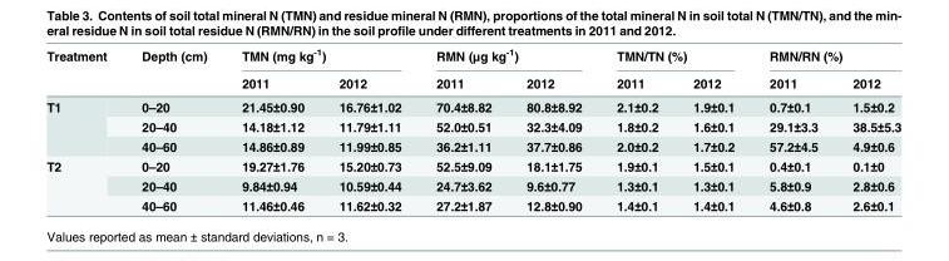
<table><thead><tr><td rowspan="2">Treatment</td><td rowspan="2">Depth (cm)</td><td colspan="2">TMN (mg kg<sup>-1</sup>)</td><td colspan="2">RMN (μg kg<sup>-1</sup>)</td><td colspan="2">TMN/TN (%)</td><td colspan="2">RMN/RN (%)</td></tr><tr><td>2011</td><td>2012</td><td>2011</td><td>2012</td><td>2011</td><td>2012</td><td>2011</td><td>2012</td></tr></thead><tbody><tr><td rowspan="3">T1</td><td>0–20</td><td>21.45±0.90</td><td>16.76±1.02</td><td>70.4±8.82</td><td>80.8±8.92</td><td>2.1±0.2</td><td>1.9±0.1</td><td>0.7±0.1</td><td>1.5±0.2</td></tr><tr><td>20–40</td><td>14.18±1.12</td><td>11.79±1.11</td><td>52.0±0.51</td><td>32.3±4.09</td><td>1.8±0.2</td><td>1.6±0.1</td><td>29.1±3.3</td><td>38.5±5.3</td></tr><tr><td>40–60</td><td>14.86±0.89</td><td>11.99±0.85</td><td>36.2±1.11</td><td>37.7±0.86</td><td>2.0±0.2</td><td>1.7±0.2</td><td>57.2±4.5</td><td>4.9±0.6</td></tr><tr><td rowspan="3">T2</td><td>0–20</td><td>19.27±1.76</td><td>15.20±0.73</td><td>52.5±9.09</td><td>18.1±1.75</td><td>1.9±0.1</td><td>1.5±0.1</td><td>0.4±0.1</td><td>0.1±0</td></tr><tr><td>20–40</td><td>9.84±0.94</td><td>10.59±0.44</td><td>24.7±3.62</td><td>9.6±0.77</td><td>1.3±0.1</td><td>1.3±0.1</td><td>5.8±0.9</td><td>2.8±0.6</td></tr><tr><td>40–60</td><td>11.46±0.46</td><td>11.62±0.32</td><td>27.2±1.87</td><td>12.8±0.90</td><td>1.4±0.1</td><td>1.4±0.1</td><td>4.6±0.8</td><td>2.6±0.1</td></tr></tbody></table>